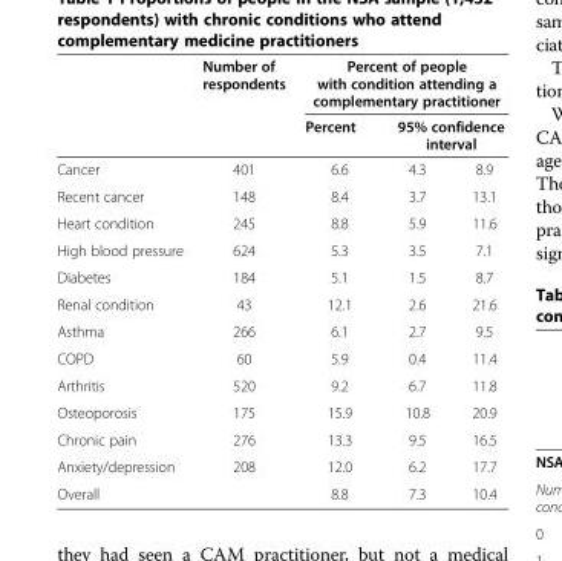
<table><thead><tr><td rowspan="3">Cancer</td><td rowspan="3">Number of respondents 401</td><td colspan="3">Percent of people with condition attending a complementary practitioner</td></tr><tr><td rowspan="2">Percent 6.6</td><td colspan="2">95% confidence interval</td></tr><tr><td>4.3</td><td>8.9</td></tr></thead><tbody><tr><td>Recent cancer</td><td>148</td><td>8.4</td><td>3.7</td><td>13.1</td></tr><tr><td>Heart condition</td><td>245</td><td>8.8</td><td>5.9</td><td>11.6</td></tr><tr><td>High blood pressure</td><td>624</td><td>5.3</td><td>3.5</td><td>7.1</td></tr><tr><td>Diabetes</td><td>184</td><td>5.1</td><td>1.5</td><td>8.7</td></tr><tr><td>Renal condition</td><td>43</td><td>12.1</td><td>2.6</td><td>21.6</td></tr><tr><td>Asthma</td><td>266</td><td>6.1</td><td>2.7</td><td>9.5</td></tr><tr><td>COPD</td><td>60</td><td>5.9</td><td>0.4</td><td>11.4</td></tr><tr><td>Arthritis</td><td>520</td><td>9.2</td><td>6.7</td><td>11.8</td></tr><tr><td>Osteoporosis</td><td>175</td><td>15.9</td><td>10.8</td><td>20.9</td></tr><tr><td>Chronic pain</td><td>276</td><td>13.3</td><td>9.5</td><td>16.5</td></tr><tr><td>Anxiety/depression</td><td>208</td><td>12.0</td><td>6.2</td><td>17.7</td></tr><tr><td>Overall</td><td></td><td>8.8</td><td>7.3</td><td>10.4</td></tr></tbody></table>